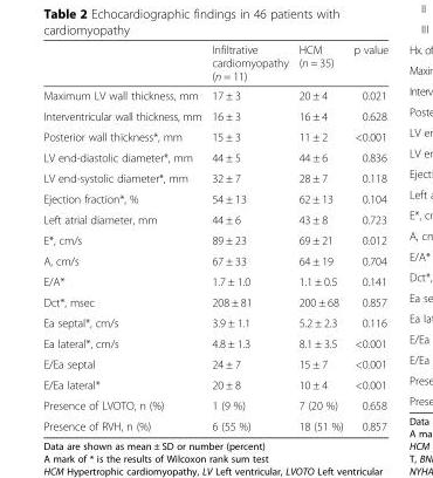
<table><thead><tr><td></td><td>Infiltrative cardiomyopathy (n = 11)</td><td>HCM (n = 35)</td><td>p value</td></tr></thead><tbody><tr><td>Maximum LV wall thickness, mm</td><td>17 ± 3</td><td>20 ± 4</td><td>0.021</td></tr><tr><td>Interventricular wall thickness, mm</td><td>16 ± 3</td><td>16 ± 4</td><td>0.628</td></tr><tr><td>Posterior wall thickness*, mm</td><td>15 ± 3</td><td>11 ± 2</td><td>&lt;0.001</td></tr><tr><td>LV end-diastolic diameter*, mm</td><td>44 ± 5</td><td>44 ± 6</td><td>0.836</td></tr><tr><td>LV end-systolic diameter*, mm</td><td>32 ± 7</td><td>28 ± 7</td><td>0.118</td></tr><tr><td>Ejection fraction*, %</td><td>54 ± 13</td><td>62 ± 13</td><td>0.104</td></tr><tr><td>Left atrial diameter, mm</td><td>44 ± 6</td><td>43 ± 8</td><td>0.723</td></tr><tr><td>E*, cm/s</td><td>89 ± 23</td><td>69 ± 21</td><td>0.012</td></tr><tr><td>A, cm/s</td><td>67 ± 33</td><td>64 ± 19</td><td>0.704</td></tr><tr><td>E/A*</td><td>1.7 ± 1.0</td><td>1.1 ± 0.5</td><td>0.141</td></tr><tr><td>Dct*, msec</td><td>208 ± 81</td><td>200 ± 68</td><td>0.857</td></tr><tr><td>Ea septal*, cm/s</td><td>3.9 ± 1.1</td><td>5.2 ± 2.3</td><td>0.116</td></tr><tr><td>Ea lateral*, cm/s</td><td>4.8 ± 1.3</td><td>8.1 ± 3.5</td><td>&lt;0.001</td></tr><tr><td>E/Ea septal</td><td>24 ± 7</td><td>15 ± 7</td><td>&lt;0.001</td></tr><tr><td>E/Ea lateral*</td><td>20 ± 8</td><td>10 ± 4</td><td>&lt;0.001</td></tr><tr><td>Presence of LVOTO, n (%)</td><td>1 (9 %)</td><td>7 (20 %)</td><td>0.658</td></tr><tr><td>Presence of RVH, n (%)</td><td>6 (55 %)</td><td>18 (51 %)</td><td>0.857</td></tr></tbody></table>